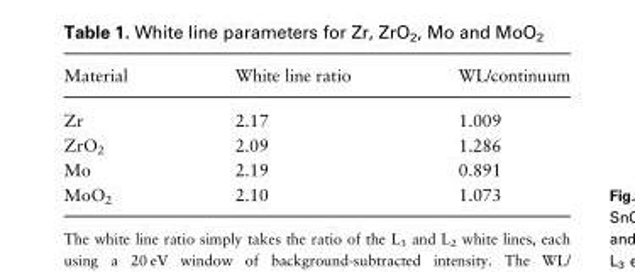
<table><thead><tr><td>Material</td><td>White line ratio</td><td>WL/continuum</td></tr></thead><tbody><tr><td>Zr</td><td>2.17</td><td>1.009</td></tr><tr><td>ZrO<sub>2</sub></td><td>2.09</td><td>1.286</td></tr><tr><td>Mo</td><td>2.19</td><td>0.891</td></tr><tr><td>MoO<sub>2</sub></td><td>2.10</td><td>1.073</td></tr></tbody></table>